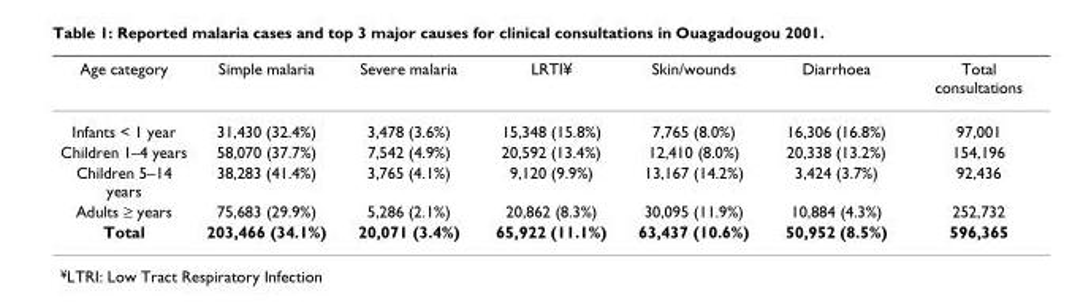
<table><thead><tr><td>Age category</td><td>Simple malaria</td><td>Severe malaria</td><td>LRTI¥</td><td>Skin/wounds</td><td>Diarrhoea</td><td>Total consultations</td></tr></thead><tbody><tr><td>Infants &lt; 1 year</td><td>31,430 (32.4%)</td><td>3,478 (3.6%)</td><td>15,348 (15.8%)</td><td>7,765 (8.0%)</td><td>16,306 (16.8%)</td><td>97,001</td></tr><tr><td>Children 1–4 years</td><td>58,070 (37.7%)</td><td>7,542 (4.9%)</td><td>20,592 (13.4%)</td><td>12,410 (8.0%)</td><td>20,338 (13.2%)</td><td>154,196</td></tr><tr><td>Children 5–14 years</td><td>38,283 (41.4%)</td><td>3,765 (4.1%)</td><td>9,120 (9.9%)</td><td>13,167 (14.2%)</td><td>3,424 (3.7%)</td><td>92,436</td></tr><tr><td>Adults ≥ years</td><td>75,683 (29.9%)</td><td>5,286 (2.1%)</td><td>20,862 (8.3%)</td><td>30,095 (11.9%)</td><td>10,884 (4.3%)</td><td>252,732</td></tr><tr><td>Total</td><td>203,466 (34.1%)</td><td>20,071 (3.4%)</td><td>65,922 (11.1%)</td><td>63,437 (10.6%)</td><td>50,952 (8.5%)</td><td>596,365</td></tr></tbody></table>